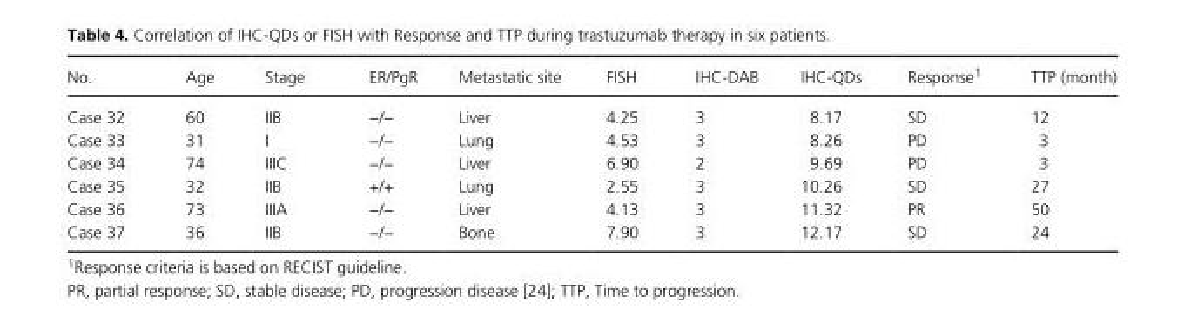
<table><thead><tr><td>No.</td><td>Age</td><td>Stage</td><td>ER/PgR</td><td>Metastatic site</td><td>FISH</td><td>IHC- DAB</td><td>IHC- QDs</td><td>Response1</td><td>TTP (month)</td></tr></thead><tbody><tr><td>Case 32</td><td>60</td><td>IIB</td><td>−/−</td><td>Liver</td><td>4.25</td><td>3</td><td>8.17</td><td>SD</td><td>12</td></tr><tr><td>Case 33</td><td>31</td><td>I</td><td>−/−</td><td>Lung</td><td>4.53</td><td>3</td><td>8.26</td><td>PD</td><td>3</td></tr><tr><td>Case 34</td><td>74</td><td>IIIC</td><td>−/−</td><td>Liver</td><td>6.90</td><td>2</td><td>9.69</td><td>PD</td><td>3</td></tr><tr><td>Case 35</td><td>32</td><td>IIB</td><td>+/+</td><td>Lung</td><td>2.55</td><td>3</td><td>10.26</td><td>SD</td><td>27</td></tr><tr><td>Case 36</td><td>73</td><td>IIIA</td><td>−/−</td><td>Liver</td><td>4.13</td><td>3</td><td>11.32</td><td>PR</td><td>50</td></tr><tr><td>Case 37</td><td>36</td><td>IIB</td><td>−/−</td><td>Bone</td><td>7.90</td><td>3</td><td>12.17</td><td>SD</td><td>24</td></tr></tbody></table>